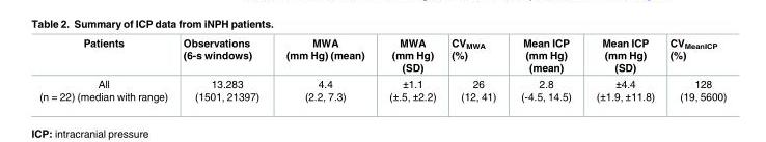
<table><thead><tr><td>Patients</td><td>Observations (6-s windows)</td><td>MWA (mm Hg) (mean)</td><td>MWA (mm Hg) (SD)</td><td>CV<sub>MWA</sub> (%)</td><td>Mean ICP (mm Hg) (mean)</td><td>Mean ICP (mm Hg) (SD)</td><td>CV<sub>MeanICP</sub> (%)</td></tr></thead><tbody><tr><td>All (n = 22) (median with range)</td><td>13.283 (1501, 21397)</td><td>4.4 (2.2, 7.3)</td><td>±1.1 (±.5, ±2.2)</td><td>26 (12, 41)</td><td>2.8 (-4.5, 14.5)</td><td>±4.4 (±1.9, ±11.8)</td><td>128 (19, 5600)</td></tr></tbody></table>